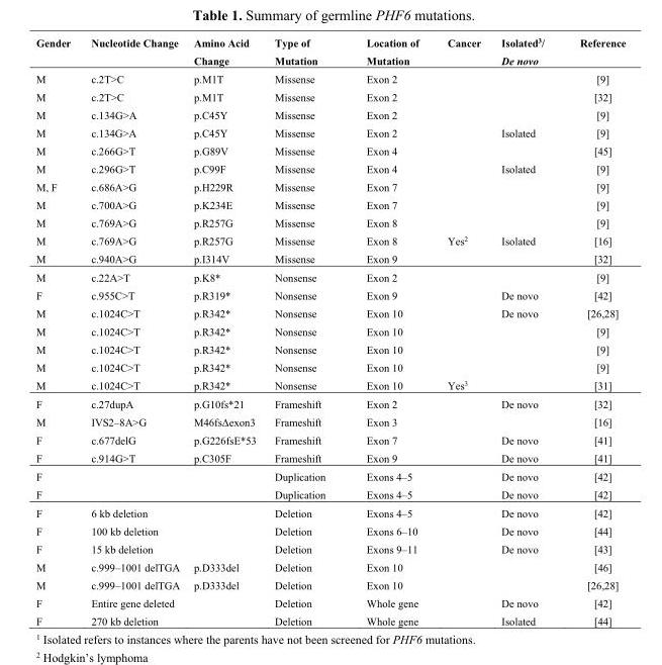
<table><thead><tr><td>Gender</td><td>Nucleotide Change</td><td>Amino Acid Change</td><td>Type of Mutation</td><td>Location of Mutation</td><td>Cancer</td><td>Isolated<sup>3</sup>/ De novo</td><td>Reference</td></tr></thead><tbody><tr><td>M</td><td>c.2T&gt;C</td><td>p.M1T</td><td>Missense</td><td>Exon 2</td><td></td><td></td><td>[9]</td></tr><tr><td>M</td><td>c.2T&gt;C</td><td>p.M1T</td><td>Missense</td><td>Exon 2</td><td></td><td></td><td>[32]</td></tr><tr><td>M</td><td>c.134G&gt;A</td><td>p.C45Y</td><td>Missense</td><td>Exon 2</td><td></td><td></td><td>[9]</td></tr><tr><td>M</td><td>c.134G&gt;A</td><td>p.C45Y</td><td>Missense</td><td>Exon 2</td><td></td><td>Isolated</td><td>[9]</td></tr><tr><td>M</td><td>c.266G&gt;T</td><td>p.G89V</td><td>Missense</td><td>Exon 4</td><td></td><td></td><td>[45]</td></tr><tr><td>M</td><td>c.296G&gt;T</td><td>p.C99F</td><td>Missense</td><td>Exon 4</td><td></td><td>Isolated</td><td>[9]</td></tr><tr><td>M, F</td><td>c.686A&gt;G</td><td>p.H229R</td><td>Missense</td><td>Exon 7</td><td></td><td></td><td>[9]</td></tr><tr><td>M</td><td>c.700A&gt;G</td><td>p.K234E</td><td>Missense</td><td>Exon 7</td><td></td><td></td><td>[9]</td></tr><tr><td>M</td><td>c.769A&gt;G</td><td>p.R257G</td><td>Missense</td><td>Exon 8</td><td></td><td></td><td>[9]</td></tr><tr><td>M</td><td>c.769A&gt;G</td><td>p.R257G</td><td>Missense</td><td>Exon 8</td><td>Yes<sup>2</sup></td><td>Isolated</td><td>[16]</td></tr><tr><td>M</td><td>c.940A&gt;G</td><td>p.I314V</td><td>Missense</td><td>Exon 9</td><td></td><td></td><td>[32]</td></tr><tr><td>M</td><td>c.22A&gt;T</td><td>p.K8*</td><td>Nonsense</td><td>Exon 2</td><td></td><td></td><td>[9]</td></tr><tr><td>F</td><td>c.955C&gt;T</td><td>p.R319*</td><td>Nonsense</td><td>Exon 9</td><td></td><td>De novo</td><td>[42]</td></tr><tr><td>M</td><td>c.1024C&gt;T</td><td>p.R342*</td><td>Nonsense</td><td>Exon 10</td><td></td><td>De novo</td><td>[26,28]</td></tr><tr><td>M</td><td>c.1024C&gt;T</td><td>p.R342*</td><td>Nonsense</td><td>Exon 10</td><td></td><td></td><td>[9]</td></tr><tr><td>M</td><td>c.1024C&gt;T</td><td>p.R342*</td><td>Nonsense</td><td>Exon 10</td><td></td><td></td><td>[9]</td></tr><tr><td>M</td><td>c.1024C&gt;T</td><td>p.R342*</td><td>Nonsense</td><td>Exon 10</td><td></td><td></td><td>[9]</td></tr><tr><td>M</td><td>c.1024C&gt;T</td><td>p.R342*</td><td>Nonsense</td><td>Exon 10</td><td>Yes<sup>3</sup></td><td></td><td>[31]</td></tr><tr><td>F</td><td>c.27dupA</td><td>p.G10fs*21</td><td>Frameshift</td><td>Exon 2</td><td></td><td>De novo</td><td>[32]</td></tr><tr><td>M</td><td>IVS2–8A&gt;G</td><td>M46fsΔexon3</td><td>Frameshift</td><td>Exon 3</td><td></td><td></td><td>[16]</td></tr><tr><td>F</td><td>c.677delG</td><td>p.G226fsE*53</td><td>Frameshift</td><td>Exon 7</td><td></td><td>De novo</td><td>[41]</td></tr><tr><td>F</td><td>c.914G&gt;T</td><td>p.C305F</td><td>Frameshift</td><td>Exon 9</td><td></td><td>De novo</td><td>[41]</td></tr><tr><td>F</td><td></td><td></td><td>Duplication</td><td>Exons 4–5</td><td></td><td>De novo</td><td>[42]</td></tr><tr><td>F</td><td></td><td></td><td>Duplication</td><td>Exons 4–5</td><td></td><td>De novo</td><td>[42]</td></tr><tr><td>F</td><td>6 kb deletion</td><td></td><td>Deletion</td><td>Exons 4–5</td><td></td><td>De novo</td><td>[42]</td></tr><tr><td>F</td><td>100 kb deletion</td><td></td><td>Deletion</td><td>Exons 6–10</td><td></td><td>De novo</td><td>[44]</td></tr><tr><td>F</td><td>15 kb deletion</td><td></td><td>Deletion</td><td>Exons 9–11</td><td></td><td>De novo</td><td>[43]</td></tr><tr><td>M</td><td>c.999–1001 delTGA</td><td>p.D333del</td><td>Deletion</td><td>Exon 10</td><td></td><td></td><td>[46]</td></tr><tr><td>M</td><td>c.999–1001 delTGA</td><td>p.D333del</td><td>Deletion</td><td>Exon 10</td><td></td><td></td><td>[26,28]</td></tr><tr><td>F</td><td>Entire gene deleted</td><td></td><td>Deletion</td><td>Whole gene</td><td></td><td>De novo</td><td>[42]</td></tr><tr><td>F</td><td>270 kb deletion</td><td></td><td>Deletion</td><td>Whole gene</td><td></td><td>Isolated</td><td>[44]</td></tr></tbody></table>